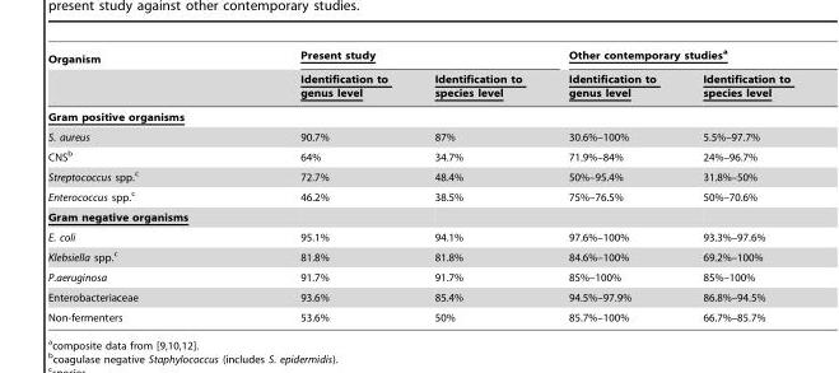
<table><thead><tr><td rowspan="2">Organism</td><td colspan="2">Present study</td><td colspan="2">Other contemporary studiesa</td></tr><tr><td>Identification to genus level</td><td>Identification to species level</td><td>Identification to genus level</td><td>Identification to species level</td></tr></thead><tbody><tr><td colspan="5">Gram positive organisms</td></tr><tr><td>S. aureus</td><td>90.7%</td><td>87%</td><td>30.6%–100%</td><td>5.5%–97.7%</td></tr><tr><td>CNS<sup>b</sup></td><td>64%</td><td>34.7%</td><td>71.9%–84%</td><td>24%–96.7%</td></tr><tr><td>Streptococcus spp.<sup>c</sup></td><td>72.7%</td><td>48.4%</td><td>50%–95.4%</td><td>31.8%–50%</td></tr><tr><td>Enterococcus spp.<sup>c</sup></td><td>46.2%</td><td>38.5%</td><td>75%–76.5%</td><td>50%–70.6%</td></tr><tr><td colspan="5">Gram negative organisms</td></tr><tr><td>E. coli</td><td>95.1%</td><td>94.1%</td><td>97.6%–100%</td><td>93.3%–97.6%</td></tr><tr><td>Klebsiella spp.<sup>c</sup></td><td>81.8%</td><td>81.8%</td><td>84.6%–100%</td><td>69.2%–100%</td></tr><tr><td>P.aeruginosa</td><td>91.7%</td><td>91.7%</td><td>85%–100%</td><td>85%–100%</td></tr><tr><td>Enterobacteriaceae</td><td>93.6%</td><td>85.4%</td><td>94.5%–97.9%</td><td>86.8%–94.5%</td></tr><tr><td>Non-fermenters</td><td>53.6%</td><td>50%</td><td>85.7%–100%</td><td>66.7%–85.7%</td></tr></tbody></table>